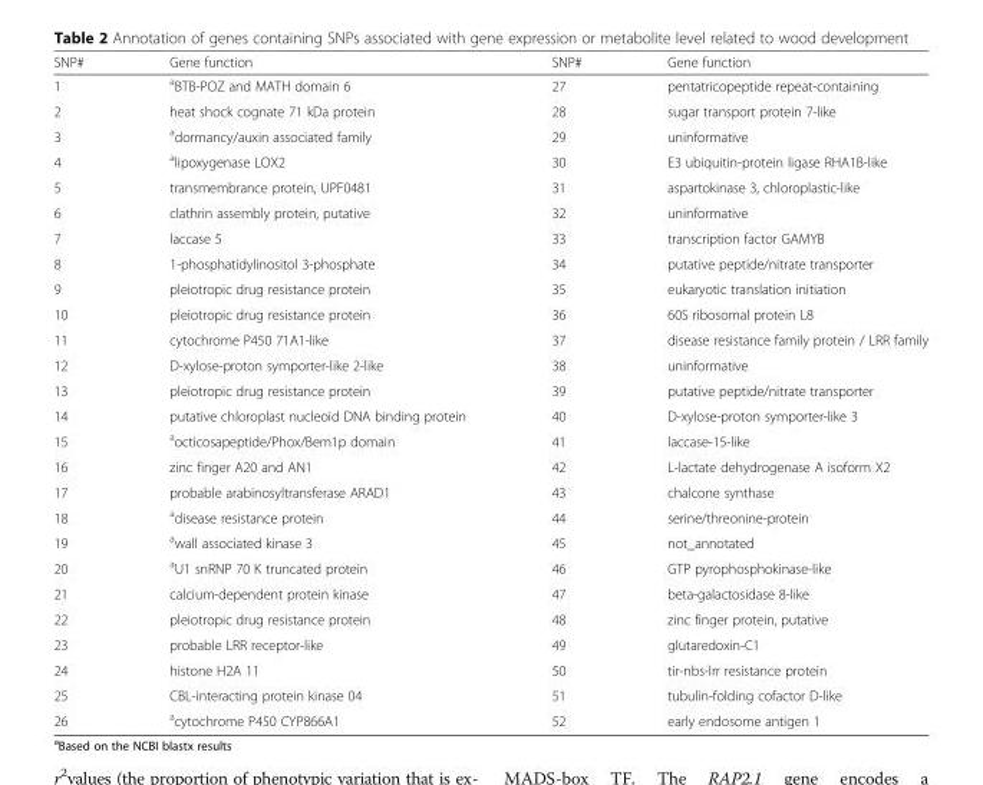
<table><thead><tr><td>SNP#</td><td>Gene function</td><td>SNP#</td><td>Gene function</td></tr></thead><tbody><tr><td>1</td><td><sup>a</sup>BTB-POZ and MATH domain 6</td><td>27</td><td>pentatricopeptide repeat-containing</td></tr><tr><td>2</td><td>heat shock cognate 71 kDa protein</td><td>28</td><td>sugar transport protein 7-like</td></tr><tr><td>3</td><td><sup>a</sup>dormancy/auxin associated family</td><td>29</td><td>uninformative</td></tr><tr><td>4</td><td><sup>a</sup>lipoxygenase LOX2</td><td>30</td><td>E3 ubiquitin-protein ligase RHA1B-like</td></tr><tr><td>5</td><td>transmembrance protein, UPF0481</td><td>31</td><td>aspartokinase 3, chloroplastic-like</td></tr><tr><td>6</td><td>clathrin assembly protein, putative</td><td>32</td><td>uninformative</td></tr><tr><td>7</td><td>laccase 5</td><td>33</td><td>transcription factor GAMYB</td></tr><tr><td>8</td><td>1-phosphatidylinositol 3-phosphate</td><td>34</td><td>putative peptide/nitrate transporter</td></tr><tr><td>9</td><td>pleiotropic drug resistance protein</td><td>35</td><td>eukaryotic translation initiation</td></tr><tr><td>10</td><td>pleiotropic drug resistance protein</td><td>36</td><td>60S ribosomal protein L8</td></tr><tr><td>11</td><td>cytochrome P450 71A1-like</td><td>37</td><td>disease resistance family protein / LRR family</td></tr><tr><td>12</td><td>D-xylose-proton symporter-like 2-like</td><td>38</td><td>uninformative</td></tr><tr><td>13</td><td>pleiotropic drug resistance protein</td><td>39</td><td>putative peptide/nitrate transporter</td></tr><tr><td>14</td><td>putative chloroplast nucleoid DNA binding protein</td><td>40</td><td>D-xylose-proton symporter-like 3</td></tr><tr><td>15</td><td><sup>a</sup>octicosapeptide/Phox/Bem1p domain</td><td>41</td><td>laccase-15-like</td></tr><tr><td>16</td><td>zinc finger A20 and AN1</td><td>42</td><td>L-lactate dehydrogenase A isoform X2</td></tr><tr><td>17</td><td>probable arabinosyltransferase ARAD1</td><td>43</td><td>chalcone synthase</td></tr><tr><td>18</td><td><sup>a</sup>disease resistance protein</td><td>44</td><td>serine/threonine-protein</td></tr><tr><td>19</td><td><sup>a</sup>wall associated kinase 3</td><td>45</td><td>not_annotated</td></tr><tr><td>20</td><td><sup>a</sup>U1 snRNP 70 K truncated protein</td><td>46</td><td>GTP pyrophosphokinase-like</td></tr><tr><td>21</td><td>calcium-dependent protein kinase</td><td>47</td><td>beta-galactosidase 8-like</td></tr><tr><td>22</td><td>pleiotropic drug resistance protein</td><td>48</td><td>zinc finger protein, putative</td></tr><tr><td>23</td><td>probable LRR receptor-like</td><td>49</td><td>glutaredoxin-C1</td></tr><tr><td>24</td><td>histone H2A 11</td><td>50</td><td>tir-nbs-lrr resistance protein</td></tr><tr><td>25</td><td>CBL-interacting protein kinase 04</td><td>51</td><td>tubulin-folding cofactor D-like</td></tr><tr><td>26</td><td><sup>a</sup>cytochrome P450 CYP866A1</td><td>52</td><td>early endosome antigen 1</td></tr></tbody></table>